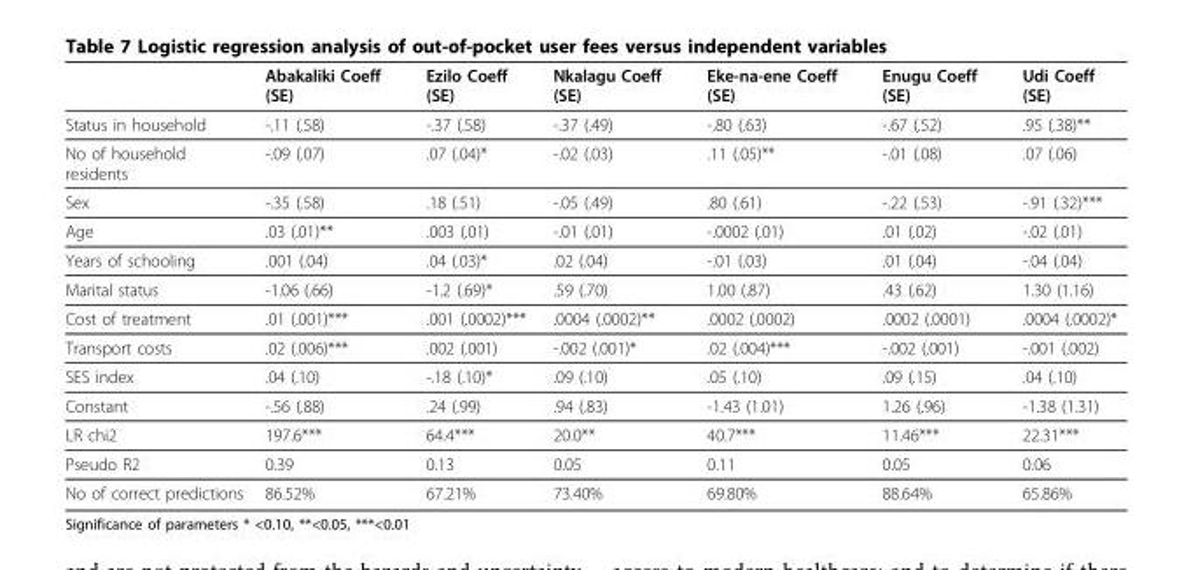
<table><thead><tr><td></td><td>Abakaliki Coeff (SE)</td><td>Ezilo Coeff (SE)</td><td>Nkalagu Coeff (SE)</td><td>Eke-na-ene Coeff (SE)</td><td>Enugu Coeff (SE)</td><td>Udi Coeff (SE)</td></tr></thead><tbody><tr><td>Status in household</td><td>-.11 (.58)</td><td>-.37 (.58)</td><td>-.37 (.49)</td><td>-.80 (.63)</td><td>-.67 (.52)</td><td>.95 (.38)**</td></tr><tr><td>No of household residents</td><td>-.09 (.07)</td><td>.07 (.04)*</td><td>-.02 (.03)</td><td>.11 (.05)**</td><td>-.01 (.08)</td><td>.07 (.06)</td></tr><tr><td>Sex</td><td>-.35 (.58)</td><td>.18 (.51)</td><td>-.05 (.49)</td><td>.80 (.61)</td><td>-.22 (.53)</td><td>-.91 (.32)***</td></tr><tr><td>Age</td><td>.03 (.01)**</td><td>.003 (.01)</td><td>-.01 (.01)</td><td>-.0002 (.01)</td><td>.01 (.02)</td><td>-.02 (.01)</td></tr><tr><td>Years of schooling</td><td>.001 (.04)</td><td>.04 (.03)*</td><td>.02 (.04)</td><td>-.01 (.03)</td><td>.01 (.04)</td><td>-.04 (.04)</td></tr><tr><td>Marital status</td><td>-1.06 (.66)</td><td>-1.2 (.69)*</td><td>.59 (.70)</td><td>1.00 (.87)</td><td>.43 (.62)</td><td>1.30 (1.16)</td></tr><tr><td>Cost of treatment</td><td>.01 (.001)***</td><td>.001 (.0002)***</td><td>.0004 (.0002)**</td><td>.0002 (.0002)</td><td>.0002 (.0001)</td><td>.0004 (.0002)*</td></tr><tr><td>Transport costs</td><td>.02 (.006)***</td><td>.002 (.001)</td><td>-.002 (.001)*</td><td>.02 (.004)***</td><td>-.002 (.001)</td><td>-.001 (.002)</td></tr><tr><td>SES index</td><td>.04 (.10)</td><td>-.18 (.10)*</td><td>.09 (.10)</td><td>.05 (.10)</td><td>.09 (.15)</td><td>.04 (.10)</td></tr><tr><td>Constant</td><td>-.56 (.88)</td><td>.24 (.99)</td><td>.94 (.83)</td><td>-1.43 (1.01)</td><td>1.26 (.96)</td><td>-1.38 (1.31)</td></tr><tr><td>LR chi2</td><td>197.6***</td><td>64.4***</td><td>20.0**</td><td>40.7***</td><td>11.46***</td><td>22.31***</td></tr><tr><td>Pseudo R2</td><td>0.39</td><td>0.13</td><td>0.05</td><td>0.11</td><td>0.05</td><td>0.06</td></tr><tr><td>No of correct predictions</td><td>86.52%</td><td>67.21%</td><td>73.40%</td><td>69.80%</td><td>88.64%</td><td>65.86%</td></tr></tbody></table>